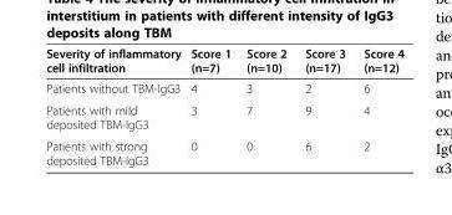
<table><thead><tr><td>Severity of inflammatory cell infiltration</td><td>Score 1 (n=7)</td><td>Score 2 (n=10)</td><td>Score 3 (n=17)</td><td>Score 4 (n=12)</td></tr></thead><tbody><tr><td>Patients without TBM-IgG3</td><td>4</td><td>3</td><td>2</td><td>6</td></tr><tr><td>Patients with mild deposited TBM-IgG3</td><td>3</td><td>7</td><td>9</td><td>4</td></tr><tr><td>Patients with strong deposited TBM-IgG3</td><td>0</td><td>0</td><td>6</td><td>2</td></tr></tbody></table>